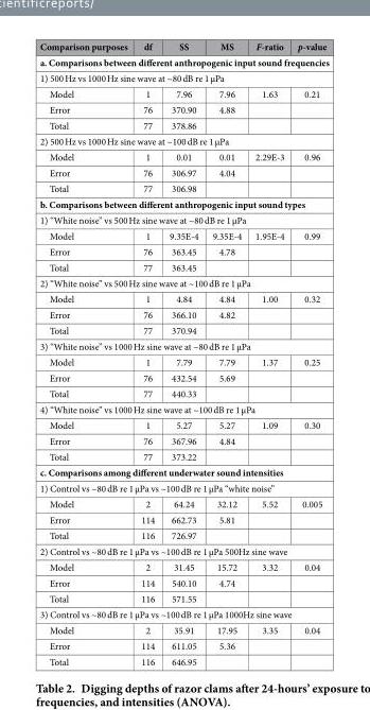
<table><thead><tr><td>Comparison purposes</td><td>df</td><td>SS</td><td>MS</td><td>F-ratio</td><td>p-value</td></tr></thead><tbody><tr><td colspan="6">a. Comparisons between different anthropogenic input sound frequencies</td></tr><tr><td colspan="6">1) 500 Hz vs 1000 Hz sine wave at ~80 dB re 1 μPa</td></tr><tr><td>Model</td><td>1</td><td>7.96</td><td>7.96</td><td>1.63</td><td>0.21</td></tr><tr><td>Error</td><td>76</td><td>370.90</td><td>4.88</td><td></td><td></td></tr><tr><td>Total</td><td>77</td><td>378.86</td><td></td><td></td><td></td></tr><tr><td colspan="6">2) 500 Hz vs 1000 Hz sine wave at ~100 dB re 1 μPa</td></tr><tr><td>Model</td><td>1</td><td>0.01</td><td>0.01</td><td>2.29E-3</td><td>0.96</td></tr><tr><td>Error</td><td>76</td><td>306.97</td><td>4.04</td><td></td><td></td></tr><tr><td>Total</td><td>77</td><td>306.98</td><td></td><td></td><td></td></tr><tr><td colspan="6">b. Comparisons between different anthropogenic input sound types</td></tr><tr><td colspan="6">1) “White noise” vs 500 Hz sine wave at ~80 dB re 1 μPa</td></tr><tr><td>Model</td><td>1</td><td>9.35E-4</td><td>9.35E-4</td><td>1.95E-4</td><td>0.99</td></tr><tr><td>Error</td><td>76</td><td>363.45</td><td>4.78</td><td></td><td></td></tr><tr><td>Total</td><td>77</td><td>363.45</td><td></td><td></td><td></td></tr><tr><td colspan="6">2) “White noise” vs 500 Hz sine wave at ~100 dB re 1 μPa</td></tr><tr><td>Model</td><td>1</td><td>4.84</td><td>4.84</td><td>1.00</td><td>0.32</td></tr><tr><td>Error</td><td>76</td><td>366.10</td><td>4.82</td><td></td><td></td></tr><tr><td>Total</td><td>77</td><td>370.94</td><td></td><td></td><td></td></tr><tr><td colspan="6">3) “White noise” vs 1000 Hz sine wave at ~80 dB re 1 μPa</td></tr><tr><td>Model</td><td>1</td><td>7.79</td><td>7.79</td><td>1.37</td><td>0.25</td></tr><tr><td>Error</td><td>76</td><td>432.54</td><td>5.69</td><td></td><td></td></tr><tr><td>Total</td><td>77</td><td>440.33</td><td></td><td></td><td></td></tr><tr><td colspan="6">4) “White noise” vs 1000 Hz sine wave at ~100 dB re 1 μPa</td></tr><tr><td>Model</td><td>1</td><td>5.27</td><td>5.27</td><td>1.09</td><td>0.30</td></tr><tr><td>Error</td><td>76</td><td>367.96</td><td>4.84</td><td></td><td></td></tr><tr><td>Total</td><td>77</td><td>373.22</td><td></td><td></td><td></td></tr><tr><td colspan="6">c. Comparisons among different underwater sound intensities</td></tr><tr><td colspan="6">1) Control vs ~80 dB re 1 μPa vs ~100 dB re 1 μPa “white noise”</td></tr><tr><td>Model</td><td>2</td><td>64.24</td><td>32.12</td><td>5.52</td><td>0.005</td></tr><tr><td>Error</td><td>114</td><td>662.73</td><td>5.81</td><td></td><td></td></tr><tr><td>Total</td><td>116</td><td>726.97</td><td></td><td></td><td></td></tr><tr><td colspan="6">2) Control vs ~80 dB re 1 μPa vs ~100 dB re 1 μPa 500Hz sine wave</td></tr><tr><td>Model</td><td>2</td><td>31.45</td><td>15.72</td><td>3.32</td><td>0.04</td></tr><tr><td>Error</td><td>114</td><td>540.10</td><td>4.74</td><td></td><td></td></tr><tr><td>Total</td><td>116</td><td>571.55</td><td></td><td></td><td></td></tr><tr><td colspan="6">3) Control vs ~80 dB re 1 μPa vs ~100 dB re 1 μPa 1000Hz sine wave</td></tr><tr><td>Model</td><td>2</td><td>35.91</td><td>17.95</td><td>3.35</td><td>0.04</td></tr><tr><td>Error</td><td>114</td><td>611.05</td><td>5.36</td><td></td><td></td></tr><tr><td>Total</td><td>116</td><td>646.95</td><td></td><td></td><td></td></tr></tbody></table>